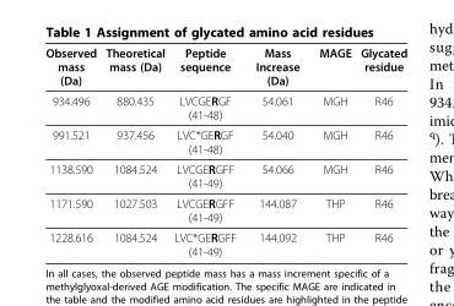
<table><thead><tr><td>Observed mass (Da)</td><td>Theoretical mass (Da)</td><td>Peptide sequence</td><td>Mass Increase (Da)</td><td>MAGE</td><td>Glycated residue</td></tr></thead><tbody><tr><td>934.496</td><td>880.435</td><td>LVCGERGF (41-48)</td><td>54.061</td><td>MGH</td><td>R46</td></tr><tr><td>991.521</td><td>937.456</td><td>LVC*GERGF (41-48)</td><td>54.040</td><td>MGH</td><td>R46</td></tr><tr><td>1138.590</td><td>1084.524</td><td>LVCGERGFF (41-49)</td><td>54.066</td><td>MGH</td><td>R46</td></tr><tr><td>1171.590</td><td>1027.503</td><td>LVCGERGFF (41-49)</td><td>144.087</td><td>THP</td><td>R46</td></tr><tr><td>1228.616</td><td>1084.524</td><td>LVC*GERGFF (41-49)</td><td>144.092</td><td>THP</td><td>R46</td></tr></tbody></table>